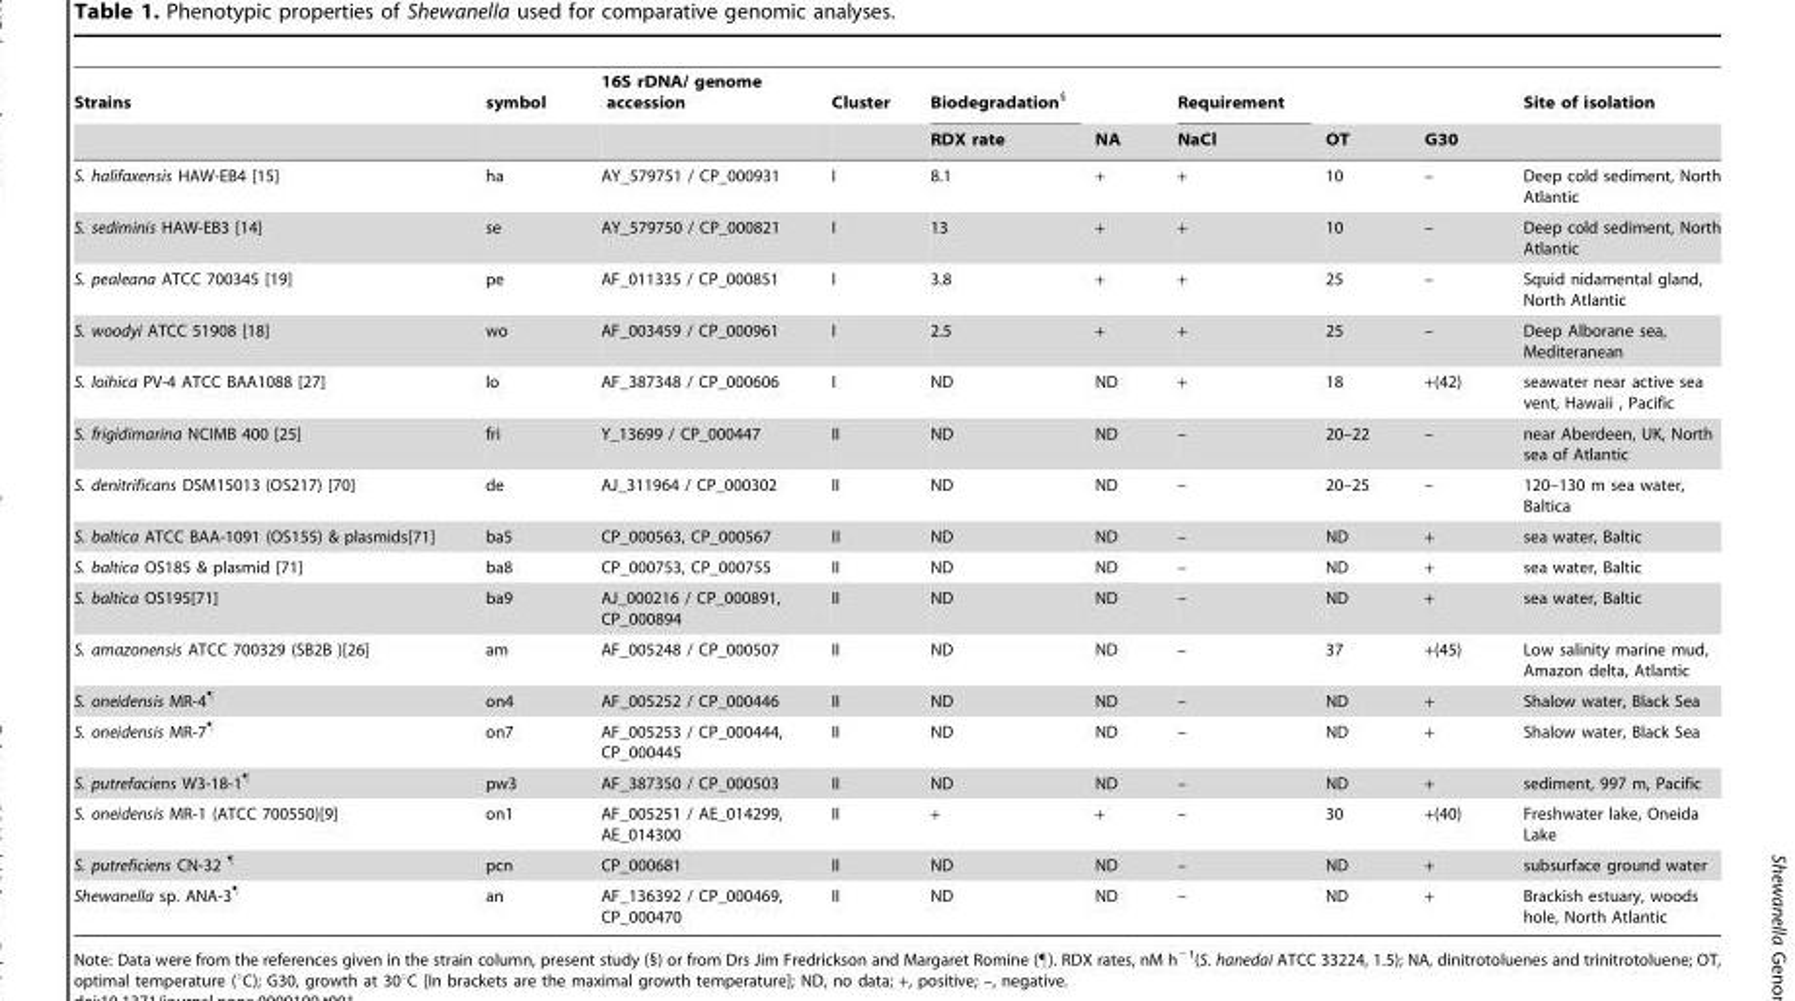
<table><thead><tr><td rowspan="2">Strains</td><td rowspan="2">symbol</td><td rowspan="2">16S rDNA/ genome accession</td><td rowspan="2">Cluster</td><td rowspan="2">Biodegradation<sup>§</sup> RDX rate</td><td rowspan="2">NA</td><td rowspan="2">Requirement NaCl</td><td rowspan="2">OT</td><td rowspan="2">G30</td><td rowspan="2">Site of isolation</td></tr><tr></tr></thead><tbody><tr><td>S. halifaxensis HAW-EB4 [15]</td><td>ha</td><td>AY_579751 / CP_000931</td><td>I</td><td>8.1</td><td>+</td><td>+</td><td>10</td><td>–</td><td>Deep cold sediment, North Atlantic</td></tr><tr><td>S. sediminis HAW-EB3 [14]</td><td>se</td><td>AY_579750 / CP_000821</td><td>I</td><td>13</td><td>+</td><td>+</td><td>10</td><td>–</td><td>Deep cold sediment, North Atlantic</td></tr><tr><td>S. pealeana ATCC 700345 [19]</td><td>pe</td><td>AF_011335 / CP_000851</td><td>I</td><td>3.8</td><td>+</td><td>+</td><td>25</td><td>–</td><td>Squid nidamental gland, North Atlantic</td></tr><tr><td>S. woodyi ATCC 51908 [18]</td><td>wo</td><td>AF_003459 / CP_000961</td><td>I</td><td>2.5</td><td>+</td><td>+</td><td>25</td><td>–</td><td>Deep Alborane sea, Mediteranean</td></tr><tr><td>S. loihica PV-4 ATCC BAA1088 [27]</td><td>lo</td><td>AF_387348 / CP_000606</td><td>I</td><td>ND</td><td>ND</td><td>+</td><td>18</td><td>+(42)</td><td>seawater near active sea vent, Hawaii , Pacific</td></tr><tr><td>S. frigidimarina NCIMB 400 [25]</td><td>fri</td><td>Y_13699 / CP_000447</td><td>II</td><td>ND</td><td>ND</td><td>–</td><td>20–22</td><td>–</td><td>near Aberdeen, UK, North sea of Atlantic</td></tr><tr><td>S. denitrificans DSM15013 (OS217) [70]</td><td>de</td><td>AJ_311964 / CP_000302</td><td>II</td><td>ND</td><td>ND</td><td>–</td><td>20–25</td><td>–</td><td>120–130 m sea water, Baltica</td></tr><tr><td>S. baltica ATCC BAA-1091 (OS155) &amp; plasmids[71]</td><td>ba5</td><td>CP_000563, CP_000567</td><td>II</td><td>ND</td><td>ND</td><td>–</td><td>ND</td><td>+</td><td>sea water, Baltic</td></tr><tr><td>S. baltica OS185 &amp; plasmid [71]</td><td>ba8</td><td>CP_000753, CP_000755</td><td>II</td><td>ND</td><td>ND</td><td>–</td><td>ND</td><td>+</td><td>sea water, Baltic</td></tr><tr><td>S. baltica OS195[71]</td><td>ba9</td><td>AJ_000216 / CP_000891, CP_000894</td><td>II</td><td>ND</td><td>ND</td><td>–</td><td>ND</td><td>+</td><td>sea water, Baltic</td></tr><tr><td>S. amazonensis ATCC 700329 (SB2B )[26]</td><td>am</td><td>AF_005248 / CP_000507</td><td>II</td><td>ND</td><td>ND</td><td>–</td><td>37</td><td>+(45)</td><td>Low salinity marine mud, Amazon delta, Atlantic</td></tr><tr><td>S. oneidensis MR-4<sup>¶</sup></td><td>on4</td><td>AF_005252 / CP_000446</td><td>II</td><td>ND</td><td>ND</td><td>–</td><td>ND</td><td>+</td><td>Shalow water, Black Sea</td></tr><tr><td>S. oneidensis MR-7<sup>¶</sup></td><td>on7</td><td>AF_005253 / CP_000444, CP_000445</td><td>II</td><td>ND</td><td>ND</td><td>–</td><td>ND</td><td>+</td><td>Shalow water, Black Sea</td></tr><tr><td>S. putrefaciens W3-18-1<sup>¶</sup></td><td>pw3</td><td>AF_387350 / CP_000503</td><td>II</td><td>ND</td><td>ND</td><td>–</td><td>ND</td><td>+</td><td>sediment, 997 m, Pacific</td></tr><tr><td>S. oneidensis MR-1 (ATCC 700550)[9]</td><td>on1</td><td>AF_005251 / AE_014299, AE_014300</td><td>II</td><td>+</td><td>+</td><td>–</td><td>30</td><td>+(40)</td><td>Freshwater lake, Oneida Lake</td></tr><tr><td>S. putreficiens CN-32 <sup>¶</sup></td><td>pcn</td><td>CP_000681</td><td>II</td><td>ND</td><td>ND</td><td>–</td><td>ND</td><td>+</td><td>subsurface ground water</td></tr><tr><td>Shewanella sp. ANA-3<sup>¶</sup></td><td>an</td><td>AF_136392 / CP_000469, CP_000470</td><td>II</td><td>ND</td><td>ND</td><td>–</td><td>ND</td><td>+</td><td>Brackish estuary, woods hole, North Atlantic</td></tr></tbody></table>